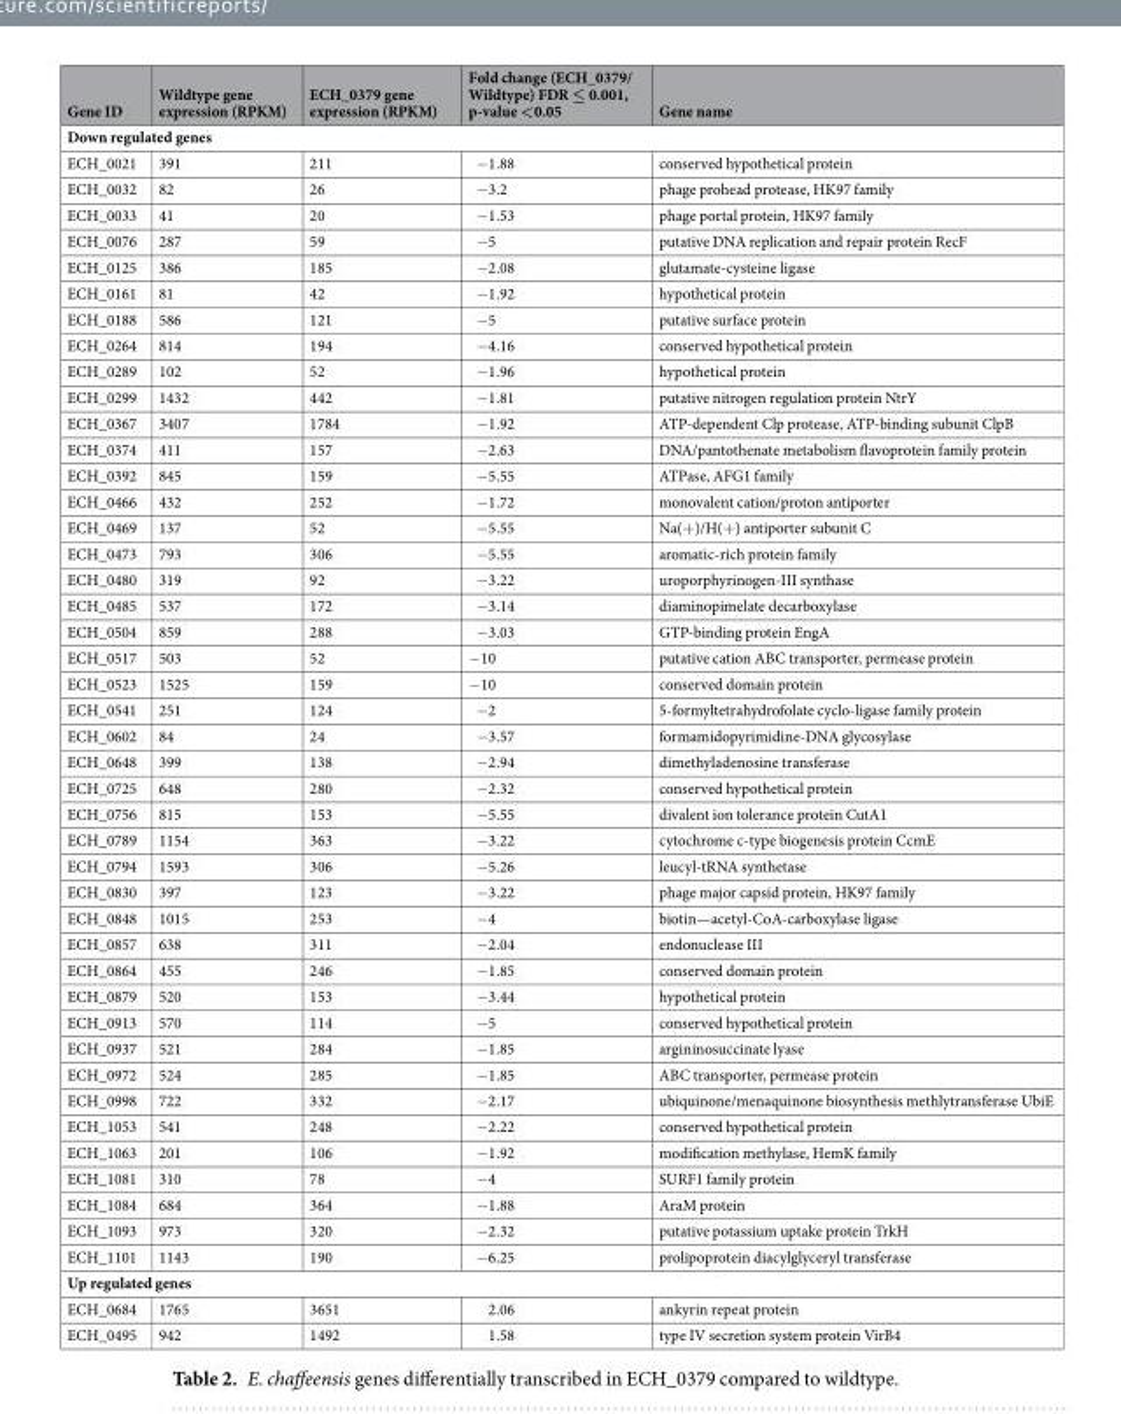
<table><thead><tr><td>Gene ID</td><td>Wildtype gene expression (RPKM)</td><td>ECH_0379 gene expression (RPKM)</td><td>Fold change (ECH_0379/ Wildtype) FDR ≤ 0.001, p-value &lt;0.05</td><td>Gene name</td></tr></thead><tbody><tr><td colspan="5">Down regulated genes</td></tr><tr><td>ECH_0021</td><td>391</td><td>211</td><td>−1.88</td><td>conserved hypothetical protein</td></tr><tr><td>ECH_0032</td><td>82</td><td>26</td><td>−3.2</td><td>phage prohead protease, HK97 family</td></tr><tr><td>ECH_0033</td><td>41</td><td>20</td><td>−1.53</td><td>phage portal protein, HK97 family</td></tr><tr><td>ECH_0076</td><td>287</td><td>59</td><td>−5</td><td>putative DNA replication and repair protein RecF</td></tr><tr><td>ECH_0125</td><td>386</td><td>185</td><td>−2.08</td><td>glutamate-cysteine ligase</td></tr><tr><td>ECH_0161</td><td>81</td><td>42</td><td>−1.92</td><td>hypothetical protein</td></tr><tr><td>ECH_0188</td><td>586</td><td>121</td><td>−5</td><td>putative surface protein</td></tr><tr><td>ECH_0264</td><td>814</td><td>194</td><td>−4.16</td><td>conserved hypothetical protein</td></tr><tr><td>ECH_0289</td><td>102</td><td>52</td><td>−1.96</td><td>hypothetical protein</td></tr><tr><td>ECH_0299</td><td>1432</td><td>442</td><td>−1.81</td><td>putative nitrogen regulation protein NtrY</td></tr><tr><td>ECH_0367</td><td>3407</td><td>1784</td><td>−1.92</td><td>ATP-dependent Clp protease, ATP-binding subunit ClpB</td></tr><tr><td>ECH_0374</td><td>411</td><td>157</td><td>−2.63</td><td>DNA/pantothenate metabolism flavoprotein family protein</td></tr><tr><td>ECH_0392</td><td>845</td><td>159</td><td>−5.55</td><td>ATPase, AFG1 family</td></tr><tr><td>ECH_0466</td><td>432</td><td>252</td><td>−1.72</td><td>monovalent cation/proton antiporter</td></tr><tr><td>ECH_0469</td><td>137</td><td>52</td><td>−5.55</td><td>Na(+)/H(+) antiporter subunit C</td></tr><tr><td>ECH_0473</td><td>793</td><td>306</td><td>−5.55</td><td>aromatic-rich protein family</td></tr><tr><td>ECH_0480</td><td>319</td><td>92</td><td>−3.22</td><td>uroporphyrinogen-III synthase</td></tr><tr><td>ECH_0485</td><td>537</td><td>172</td><td>−3.14</td><td>diaminopimelate decarboxylase</td></tr><tr><td>ECH_0504</td><td>859</td><td>288</td><td>−3.03</td><td>GTP-binding protein EngA</td></tr><tr><td>ECH_0517</td><td>503</td><td>52</td><td>−10</td><td>putative cation ABC transporter, permease protein</td></tr><tr><td>ECH_0523</td><td>1525</td><td>159</td><td>−10</td><td>conserved domain protein</td></tr><tr><td>ECH_0541</td><td>251</td><td>124</td><td>−2</td><td>5-formyltetrahydrofolate cyclo-ligase family protein</td></tr><tr><td>ECH_0602</td><td>84</td><td>24</td><td>−3.57</td><td>formamidopyrimidine-DNA glycosylase</td></tr><tr><td>ECH_0648</td><td>399</td><td>138</td><td>−2.94</td><td>dimethyladenosine transferase</td></tr><tr><td>ECH_0725</td><td>648</td><td>280</td><td>−2.32</td><td>conserved hypothetical protein</td></tr><tr><td>ECH_0756</td><td>815</td><td>153</td><td>−5.55</td><td>divalent ion tolerance protein CutA1</td></tr><tr><td>ECH_0789</td><td>1154</td><td>363</td><td>−3.22</td><td>cytochrome c-type biogenesis protein CcmE</td></tr><tr><td>ECH_0794</td><td>1593</td><td>306</td><td>−5.26</td><td>leucyl-tRNA synthetase</td></tr><tr><td>ECH_0830</td><td>397</td><td>123</td><td>−3.22</td><td>phage major capsid protein, HK97 family</td></tr><tr><td>ECH_0848</td><td>1015</td><td>253</td><td>−4</td><td>biotin—acetyl-CoA-carboxylase ligase</td></tr><tr><td>ECH_0857</td><td>638</td><td>311</td><td>−2.04</td><td>endonuclease III</td></tr><tr><td>ECH_0864</td><td>455</td><td>246</td><td>−1.85</td><td>conserved domain protein</td></tr><tr><td>ECH_0879</td><td>520</td><td>153</td><td>−3.44</td><td>hypothetical protein</td></tr><tr><td>ECH_0913</td><td>570</td><td>114</td><td>−5</td><td>conserved hypothetical protein</td></tr><tr><td>ECH_0937</td><td>521</td><td>284</td><td>−1.85</td><td>argininosuccinate lyase</td></tr><tr><td>ECH_0972</td><td>524</td><td>285</td><td>−1.85</td><td>ABC transporter, permease protein</td></tr><tr><td>ECH_0998</td><td>722</td><td>332</td><td>−2.17</td><td>ubiquinone/menaquinone biosynthesis methlytransferase UbiE</td></tr><tr><td>ECH_1053</td><td>541</td><td>248</td><td>−2.22</td><td>conserved hypothetical protein</td></tr><tr><td>ECH_1063</td><td>201</td><td>106</td><td>−1.92</td><td>modification methylase, HemK family</td></tr><tr><td>ECH_1081</td><td>310</td><td>78</td><td>−4</td><td>SURF1 family protein</td></tr><tr><td>ECH_1084</td><td>684</td><td>364</td><td>−1.88</td><td>AraM protein</td></tr><tr><td>ECH_1093</td><td>973</td><td>320</td><td>−2.32</td><td>putative potassium uptake protein TrkH</td></tr><tr><td>ECH_1101</td><td>1143</td><td>190</td><td>−6.25</td><td>prolipoprotein diacylglyceryl transferase</td></tr><tr><td colspan="5">Up regulated genes</td></tr><tr><td>ECH_0684</td><td>1765</td><td>3651</td><td>2.06</td><td>ankyrin repeat protein</td></tr><tr><td>ECH_0495</td><td>942</td><td>1492</td><td>1.58</td><td>type IV secretion system protein VirB4</td></tr></tbody></table>